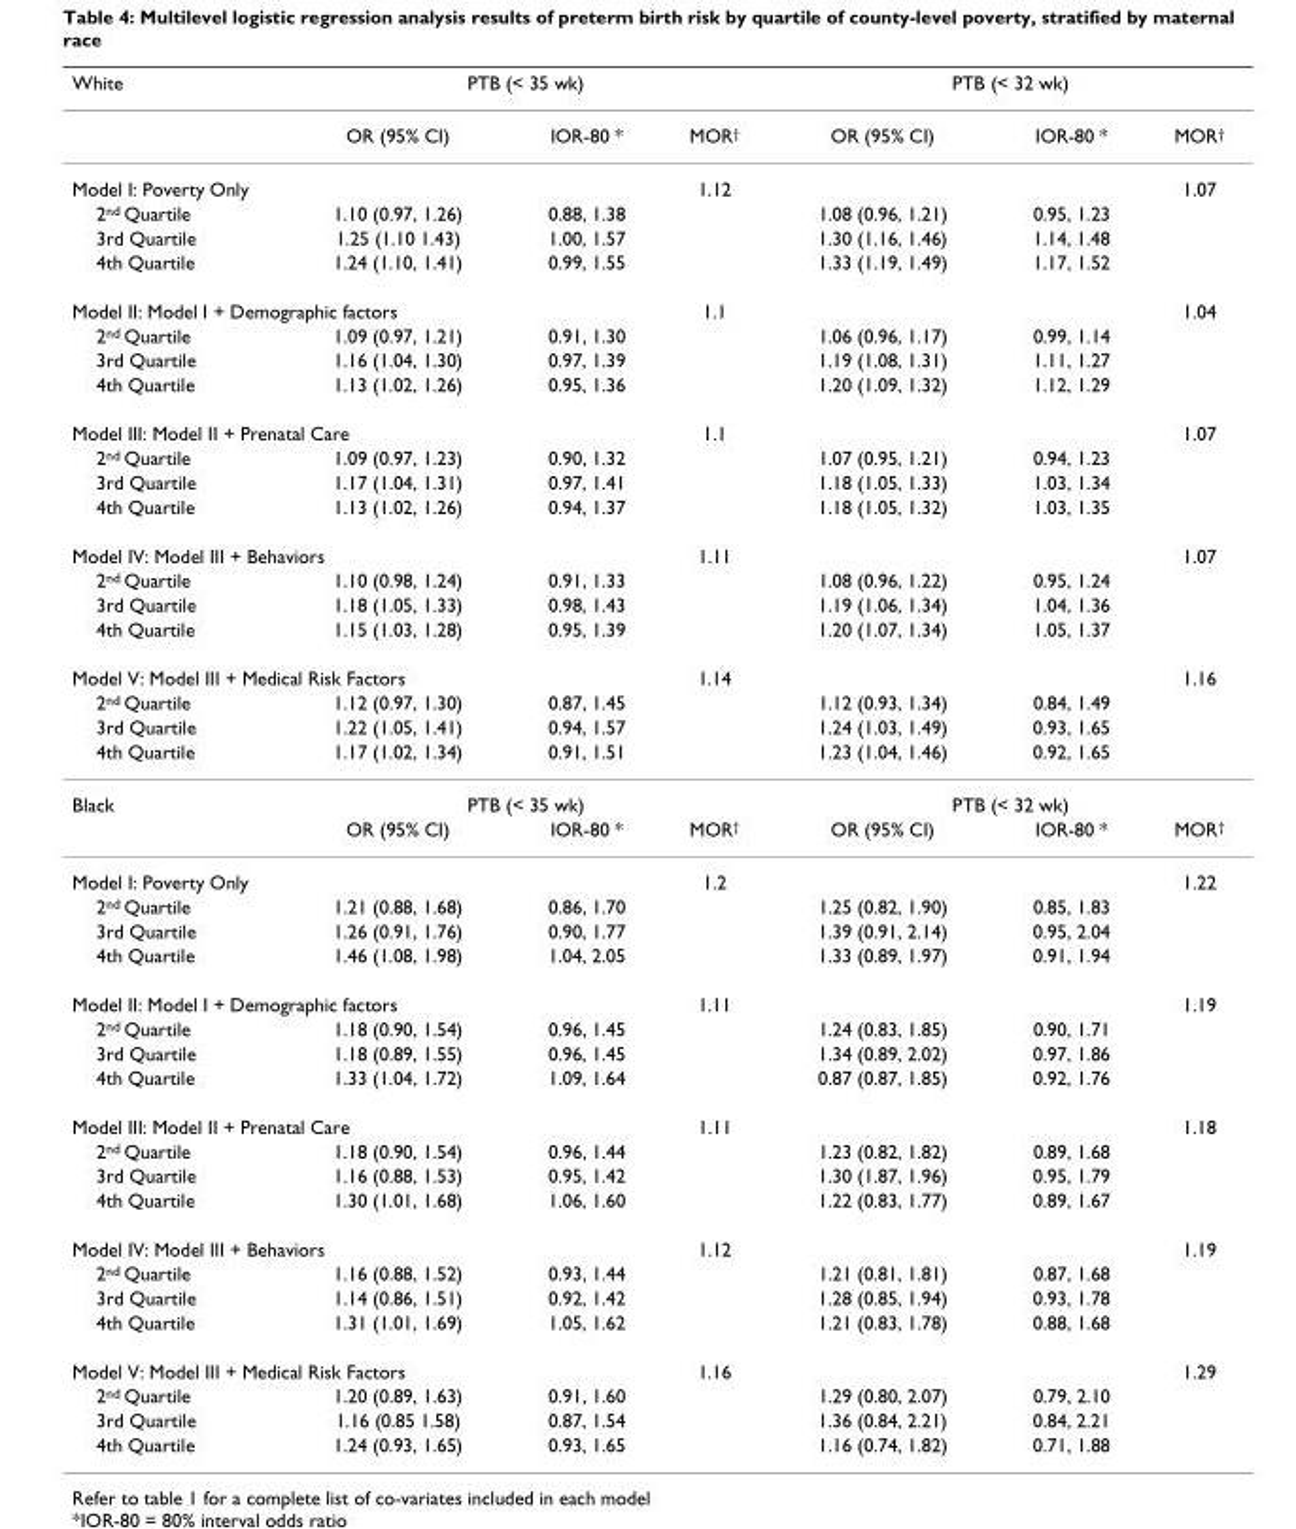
<table><thead><tr><td rowspan="2">White</td><td colspan="3">PTB (&lt; 35 wk)</td><td colspan="3">PTB (&lt; 32 wk)</td></tr><tr><td>OR (95% CI)</td><td>IOR-80 *</td><td>MOR<sup>†</sup></td><td>OR (95% CI)</td><td>IOR-80 *</td><td>MOR<sup>†</sup></td></tr></thead><tbody><tr><td colspan="3">Model I: Poverty Only</td><td>1.12</td><td></td><td></td><td>1.07</td></tr><tr><td>2<sup>nd</sup> Quartile</td><td>1.10 (0.97, 1.26)</td><td>0.88, 1.38</td><td></td><td>1.08 (0.96, 1.21)</td><td>0.95, 1.23</td><td></td></tr><tr><td>3rd Quartile</td><td>1.25 (1.10 1.43)</td><td>1.00, 1.57</td><td></td><td>1.30 (1.16, 1.46)</td><td>1.14, 1.48</td><td></td></tr><tr><td>4th Quartile</td><td>1.24 (1.10, 1.41)</td><td>0.99, 1.55</td><td></td><td>1.33 (1.19, 1.49)</td><td>1.17, 1.52</td><td></td></tr><tr><td colspan="3">Model II: Model I + Demographic factors</td><td>1.1</td><td></td><td></td><td>1.04</td></tr><tr><td>2<sup>nd</sup> Quartile</td><td>1.09 (0.97, 1.21)</td><td>0.91, 1.30</td><td></td><td>1.06 (0.96, 1.17)</td><td>0.99, 1.14</td><td></td></tr><tr><td>3rd Quartile</td><td>1.16 (1.04, 1.30)</td><td>0.97, 1.39</td><td></td><td>1.19 (1.08, 1.31)</td><td>1.11, 1.27</td><td></td></tr><tr><td>4th Quartile</td><td>1.13 (1.02, 1.26)</td><td>0.95, 1.36</td><td></td><td>1.20 (1.09, 1.32)</td><td>1.12, 1.29</td><td></td></tr><tr><td colspan="3">Model III: Model II + Prenatal Care</td><td>1.1</td><td></td><td></td><td>1.07</td></tr><tr><td>2<sup>nd</sup> Quartile</td><td>1.09 (0.97, 1.23)</td><td>0.90, 1.32</td><td></td><td>1.07 (0.95, 1.21)</td><td>0.94, 1.23</td><td></td></tr><tr><td>3rd Quartile</td><td>1.17 (1.04, 1.31)</td><td>0.97, 1.41</td><td></td><td>1.18 (1.05, 1.33)</td><td>1.03, 1.34</td><td></td></tr><tr><td>4th Quartile</td><td>1.13 (1.02, 1.26)</td><td>0.94, 1.37</td><td></td><td>1.18 (1.05, 1.32)</td><td>1.03, 1.35</td><td></td></tr><tr><td colspan="3">Model IV: Model III + Behaviors</td><td>1.11</td><td></td><td></td><td>1.07</td></tr><tr><td>2<sup>nd</sup> Quartile</td><td>1.10 (0.98, 1.24)</td><td>0.91, 1.33</td><td></td><td>1.08 (0.96, 1.22)</td><td>0.95, 1.24</td><td></td></tr><tr><td>3rd Quartile</td><td>1.18 (1.05, 1.33)</td><td>0.98, 1.43</td><td></td><td>1.19 (1.06, 1.34)</td><td>1.04, 1.36</td><td></td></tr><tr><td>4th Quartile</td><td>1.15 (1.03, 1.28)</td><td>0.95, 1.39</td><td></td><td>1.20 (1.07, 1.34)</td><td>1.05, 1.37</td><td></td></tr><tr><td colspan="3">Model V: Model III + Medical Risk Factors</td><td>1.14</td><td></td><td></td><td>1.16</td></tr><tr><td>2<sup>nd</sup> Quartile</td><td>1.12 (0.97, 1.30)</td><td>0.87, 1.45</td><td></td><td>1.12 (0.93, 1.34)</td><td>0.84, 1.49</td><td></td></tr><tr><td>3rd Quartile</td><td>1.22 (1.05, 1.41)</td><td>0.94, 1.57</td><td></td><td>1.24 (1.03, 1.49)</td><td>0.93, 1.65</td><td></td></tr><tr><td>4th Quartile</td><td>1.17 (1.02, 1.34)</td><td>0.91, 1.51</td><td></td><td>1.23 (1.04, 1.46)</td><td>0.92, 1.65</td><td></td></tr><tr><td rowspan="2">Black</td><td colspan="3">PTB (&lt; 35 wk)</td><td colspan="3">PTB (&lt; 32 wk)</td></tr><tr><td>OR (95% CI)</td><td>IOR-80 *</td><td>MOR<sup>†</sup></td><td>OR (95% CI)</td><td>IOR-80 *</td><td>MOR<sup>†</sup></td></tr><tr><td colspan="3">Model I: Poverty Only</td><td>1.2</td><td></td><td></td><td>1.22</td></tr><tr><td>2<sup>nd</sup> Quartile</td><td>1.21 (0.88, 1.68)</td><td>0.86, 1.70</td><td></td><td>1.25 (0.82, 1.90)</td><td>0.85, 1.83</td><td></td></tr><tr><td>3rd Quartile</td><td>1.26 (0.91, 1.76)</td><td>0.90, 1.77</td><td></td><td>1.39 (0.91, 2.14)</td><td>0.95, 2.04</td><td></td></tr><tr><td>4th Quartile</td><td>1.46 (1.08, 1.98)</td><td>1.04, 2.05</td><td></td><td>1.33 (0.89, 1.97)</td><td>0.91, 1.94</td><td></td></tr><tr><td colspan="3">Model II: Model I + Demographic factors</td><td>1.11</td><td></td><td></td><td>1.19</td></tr><tr><td>2<sup>nd</sup> Quartile</td><td>1.18 (0.90, 1.54)</td><td>0.96, 1.45</td><td></td><td>1.24 (0.83, 1.85)</td><td>0.90, 1.71</td><td></td></tr><tr><td>3rd Quartile</td><td>1.18 (0.89, 1.55)</td><td>0.96, 1.45</td><td></td><td>1.34 (0.89, 2.02)</td><td>0.97, 1.86</td><td></td></tr><tr><td>4th Quartile</td><td>1.33 (1.04, 1.72)</td><td>1.09, 1.64</td><td></td><td>0.87 (0.87, 1.85)</td><td>0.92, 1.76</td><td></td></tr><tr><td colspan="3">Model III: Model II + Prenatal Care</td><td>1.11</td><td></td><td></td><td>1.18</td></tr><tr><td>2<sup>nd</sup> Quartile</td><td>1.18 (0.90, 1.54)</td><td>0.96, 1.44</td><td></td><td>1.23 (0.82, 1.82)</td><td>0.89, 1.68</td><td></td></tr><tr><td>3rd Quartile</td><td>1.16 (0.88, 1.53)</td><td>0.95, 1.42</td><td></td><td>1.30 (1.87, 1.96)</td><td>0.95, 1.79</td><td></td></tr><tr><td>4th Quartile</td><td>1.30 (1.01, 1.68)</td><td>1.06, 1.60</td><td></td><td>1.22 (0.83, 1.77)</td><td>0.89, 1.67</td><td></td></tr><tr><td colspan="3">Model IV: Model III + Behaviors</td><td>1.12</td><td></td><td></td><td>1.19</td></tr><tr><td>2<sup>nd</sup> Quartile</td><td>1.16 (0.88, 1.52)</td><td>0.93, 1.44</td><td></td><td>1.21 (0.81, 1.81)</td><td>0.87, 1.68</td><td></td></tr><tr><td>3rd Quartile</td><td>1.14 (0.86, 1.51)</td><td>0.92, 1.42</td><td></td><td>1.28 (0.85, 1.94)</td><td>0.93, 1.78</td><td></td></tr><tr><td>4th Quartile</td><td>1.31 (1.01, 1.69)</td><td>1.05, 1.62</td><td></td><td>1.21 (0.83, 1.78)</td><td>0.88, 1.68</td><td></td></tr><tr><td colspan="3">Model V: Model III + Medical Risk Factors</td><td>1.16</td><td></td><td></td><td>1.29</td></tr><tr><td>2<sup>nd</sup> Quartile</td><td>1.20 (0.89, 1.63)</td><td>0.91, 1.60</td><td></td><td>1.29 (0.80, 2.07)</td><td>0.79, 2.10</td><td></td></tr><tr><td>3rd Quartile</td><td>1.16 (0.85 1.58)</td><td>0.87, 1.54</td><td></td><td>1.36 (0.84, 2.21)</td><td>0.84, 2.21</td><td></td></tr><tr><td>4th Quartile</td><td>1.24 (0.93, 1.65)</td><td>0.93, 1.65</td><td></td><td>1.16 (0.74, 1.82)</td><td>0.71, 1.88</td><td></td></tr></tbody></table>